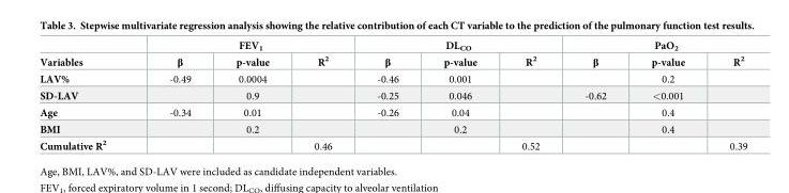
<table><thead><tr><td rowspan="2">Variables</td><td colspan="3">FEV<sub>1</sub></td><td colspan="3">DL<sub>CO</sub></td><td colspan="3">PaO<sub>2</sub></td></tr><tr><td>β</td><td>p-value</td><td>R<sup>2</sup></td><td>β</td><td>p-value</td><td>R<sup>2</sup></td><td>β</td><td>p-value</td><td>R<sup>2</sup></td></tr></thead><tbody><tr><td>LAV%</td><td>-0.49</td><td>0.0004</td><td></td><td>-0.46</td><td>0.001</td><td></td><td></td><td>0.2</td><td></td></tr><tr><td>SD-LAV</td><td></td><td>0.9</td><td></td><td>-0.25</td><td>0.046</td><td></td><td>-0.62</td><td>&lt;0.001</td><td></td></tr><tr><td>Age</td><td>-0.34</td><td>0.01</td><td></td><td>-0.26</td><td>0.04</td><td></td><td></td><td>0.4</td><td></td></tr><tr><td>BMI</td><td></td><td>0.2</td><td></td><td></td><td>0.2</td><td></td><td></td><td>0.4</td><td></td></tr><tr><td>Cumulative R<sup>2</sup></td><td></td><td></td><td>0.46</td><td></td><td></td><td>0.52</td><td></td><td></td><td>0.39</td></tr></tbody></table>